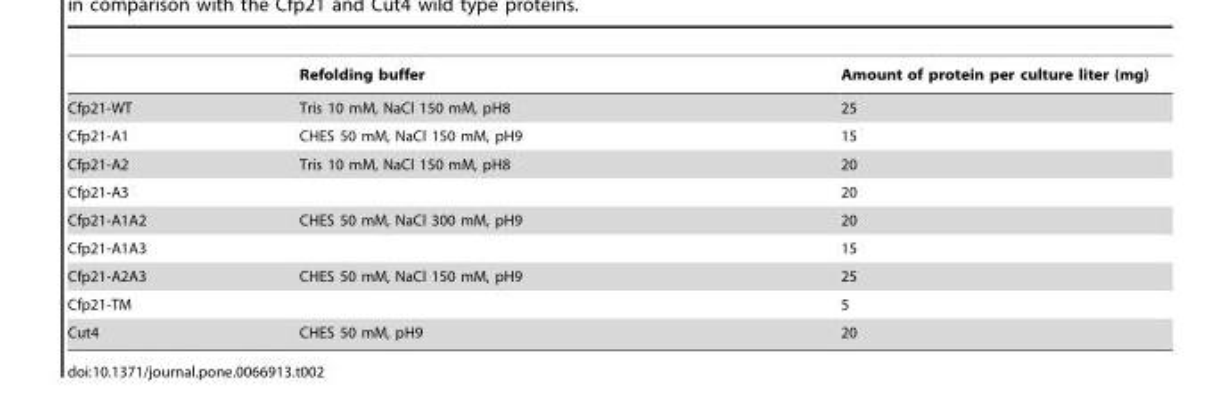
<table><thead><tr><td></td><td>Refolding buffer</td><td>Amount of protein per culture liter (mg)</td></tr></thead><tbody><tr><td>Cfp21-WT</td><td>Tris 10 mM, NaCl 150 mM, pH8</td><td>25</td></tr><tr><td>Cfp21-A1</td><td>CHES 50 mM, NaCl 150 mM, pH9</td><td>15</td></tr><tr><td>Cfp21-A2</td><td>Tris 10 mM, NaCl 150 mM, pH8</td><td>20</td></tr><tr><td>Cfp21-A3</td><td></td><td>20</td></tr><tr><td>Cfp21-A1A2</td><td>CHES 50 mM, NaCl 300 mM, pH9</td><td>20</td></tr><tr><td>Cfp21-A1A3</td><td></td><td>15</td></tr><tr><td>Cfp21-A2A3</td><td>CHES 50 mM, NaCl 150 mM, pH9</td><td>25</td></tr><tr><td>Cfp21-TM</td><td></td><td>5</td></tr><tr><td>Cut4</td><td>CHES 50 mM, pH9</td><td>20</td></tr></tbody></table>